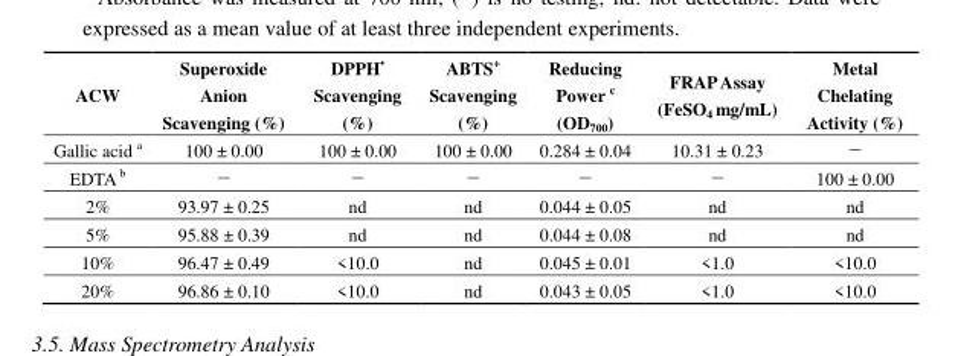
<table><thead><tr><td>ACW</td><td>Superoxide Anion Scavenging (%)</td><td>DPPH• Scavenging (%)</td><td>ABTS<sup>+</sup> Scavenging (%)</td><td>Reducing Power c (OD<sub>700</sub>)</td><td>FRAP Assay (FeSO<sub>4</sub> mg/mL)</td><td>Metal Chelating Activity (%)</td></tr></thead><tbody><tr><td>Gallic acid a</td><td>100 ± 0.00</td><td>100 ± 0.00</td><td>100 ± 0.00</td><td>0.284 ± 0.04</td><td>10.31 ± 0.23</td><td>−</td></tr><tr><td>EDTA b</td><td>−</td><td>−</td><td>−</td><td>−</td><td>−</td><td>100 ± 0.00</td></tr><tr><td>2%</td><td>93.97 ± 0.25</td><td>nd</td><td>nd</td><td>0.044 ± 0.05</td><td>nd</td><td>nd</td></tr><tr><td>5%</td><td>95.88 ± 0.39</td><td>nd</td><td>nd</td><td>0.044 ± 0.08</td><td>nd</td><td>nd</td></tr><tr><td>10%</td><td>96.47 ± 0.49</td><td>&lt;10.0</td><td>nd</td><td>0.045 ± 0.01</td><td>&lt;1.0</td><td>&lt;10.0</td></tr><tr><td>20%</td><td>96.86 ± 0.10</td><td>&lt;10.0</td><td>nd</td><td>0.043 ± 0.05</td><td>&lt;1.0</td><td>&lt;10.0</td></tr></tbody></table>